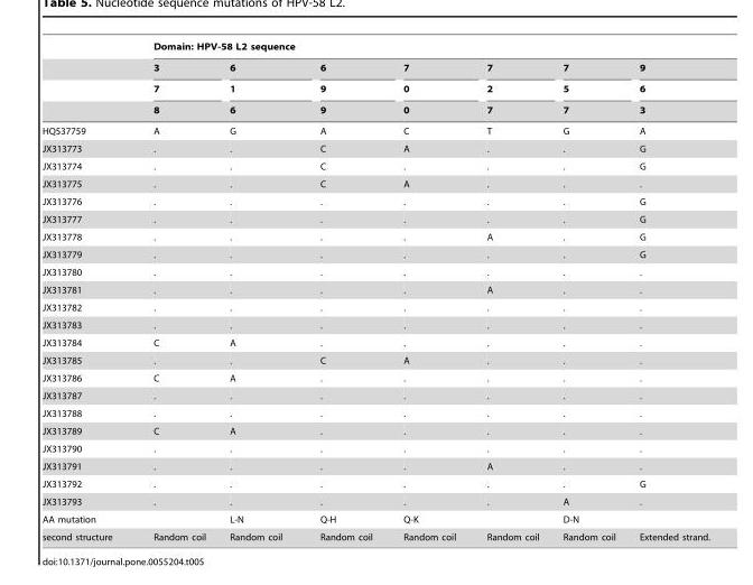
<table><thead><tr><td rowspan="4"></td><td colspan="7">Domain: HPV-58 L2 sequence</td></tr><tr><td rowspan="3">3 7 8</td><td rowspan="3">6 1 6</td><td rowspan="3">6 9 9</td><td rowspan="3">7 0 0</td><td rowspan="3">7 2 7</td><td rowspan="3">7 5 7</td><td rowspan="3">9 6 3</td></tr><tr></tr><tr></tr></thead><tbody><tr><td>HQ537759</td><td>A</td><td>G</td><td>A</td><td>C</td><td>T</td><td>G</td><td>A</td></tr><tr><td>JX313773</td><td>.</td><td>.</td><td>C</td><td>A</td><td>.</td><td>.</td><td>G</td></tr><tr><td>JX313774</td><td>.</td><td>.</td><td>C</td><td>.</td><td>.</td><td>.</td><td>G</td></tr><tr><td>JX313775</td><td>.</td><td>.</td><td>C</td><td>A</td><td>.</td><td>.</td><td>.</td></tr><tr><td>JX313776</td><td>.</td><td>.</td><td>.</td><td>.</td><td>.</td><td>.</td><td>G</td></tr><tr><td>JX313777</td><td>.</td><td>.</td><td>.</td><td>.</td><td>.</td><td>.</td><td>G</td></tr><tr><td>JX313778</td><td>.</td><td>.</td><td>.</td><td>.</td><td>A</td><td>.</td><td>G</td></tr><tr><td>JX313779</td><td>.</td><td>.</td><td>.</td><td>.</td><td>.</td><td>.</td><td>G</td></tr><tr><td>JX313780</td><td>.</td><td>.</td><td>.</td><td>.</td><td>.</td><td>.</td><td>.</td></tr><tr><td>JX313781</td><td>.</td><td>.</td><td>.</td><td>.</td><td>A</td><td>.</td><td>.</td></tr><tr><td>JX313782</td><td>.</td><td>.</td><td>.</td><td>.</td><td>.</td><td>.</td><td>.</td></tr><tr><td>JX313783</td><td>.</td><td>.</td><td>.</td><td>.</td><td>.</td><td>.</td><td>.</td></tr><tr><td>JX313784</td><td>C</td><td>A</td><td>.</td><td>.</td><td>.</td><td>.</td><td>.</td></tr><tr><td>JX313785</td><td>.</td><td>.</td><td>C</td><td>A</td><td>.</td><td>.</td><td>.</td></tr><tr><td>JX313786</td><td>C</td><td>A</td><td>.</td><td>.</td><td>.</td><td>.</td><td>.</td></tr><tr><td>JX313787</td><td>.</td><td>.</td><td>.</td><td>.</td><td>.</td><td>.</td><td>.</td></tr><tr><td>JX313788</td><td>.</td><td>.</td><td>.</td><td>.</td><td>.</td><td>.</td><td>.</td></tr><tr><td>JX313789</td><td>C</td><td>A</td><td>.</td><td>.</td><td>.</td><td>.</td><td>.</td></tr><tr><td>JX313790</td><td>.</td><td>.</td><td>.</td><td>.</td><td>.</td><td>.</td><td>.</td></tr><tr><td>JX313791</td><td>.</td><td>.</td><td>.</td><td>.</td><td>A</td><td>.</td><td>.</td></tr><tr><td>JX313792</td><td>.</td><td>.</td><td>.</td><td>.</td><td>.</td><td>.</td><td>G</td></tr><tr><td>JX313793</td><td>.</td><td>.</td><td>.</td><td>.</td><td>.</td><td>A</td><td>.</td></tr><tr><td>AA mutation</td><td></td><td>L-N</td><td>Q-H</td><td>Q-K</td><td></td><td>D-N</td><td></td></tr><tr><td>second structure</td><td>Random coil</td><td>Random coil</td><td>Random coil</td><td>Random coil</td><td>Random coil</td><td>Random coil</td><td>Extended strand.</td></tr></tbody></table>